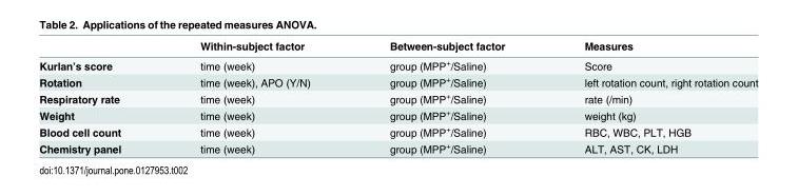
<table><thead><tr><td></td><td>Within-subject factor</td><td>Between-subject factor</td><td>Measures</td></tr></thead><tbody><tr><td>Kurlan’s score</td><td>time (week)</td><td>group (MPP<sup>+</sup>/Saline)</td><td>Score</td></tr><tr><td>Rotation</td><td>time (week), APO (Y/N)</td><td>group (MPP<sup>+</sup>/Saline)</td><td>left rotation count, right rotation count</td></tr><tr><td>Respiratory rate</td><td>time (week)</td><td>group (MPP<sup>+</sup>/Saline)</td><td>rate (/min)</td></tr><tr><td>Weight</td><td>time (week)</td><td>group (MPP<sup>+</sup>/Saline)</td><td>weight (kg)</td></tr><tr><td>Blood cell count</td><td>time (week)</td><td>group (MPP<sup>+</sup>/Saline)</td><td>RBC, WBC, PLT, HGB</td></tr><tr><td>Chemistry panel</td><td>time (week)</td><td>group (MPP<sup>+</sup>/Saline)</td><td>ALT, AST, CK, LDH</td></tr></tbody></table>